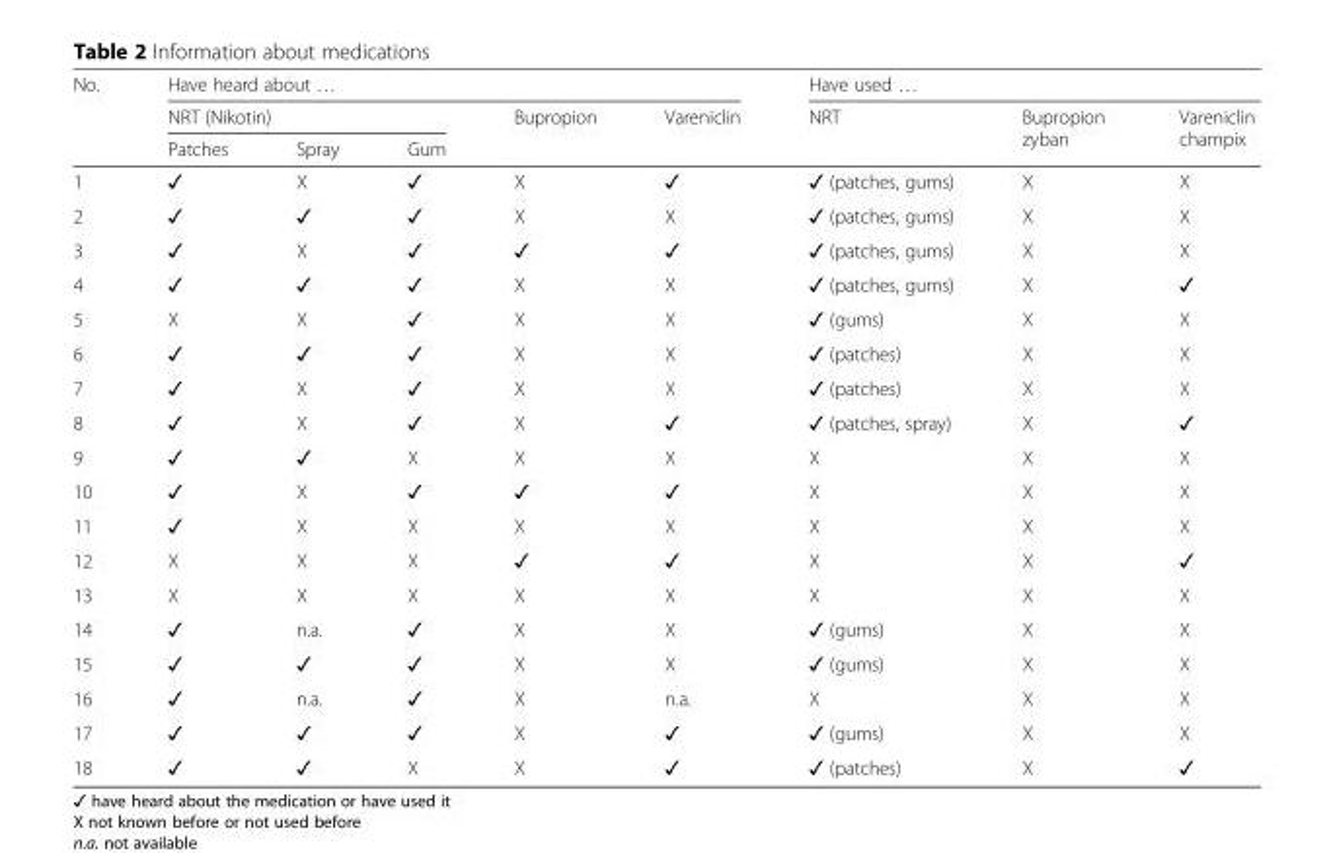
<table><thead><tr><td rowspan="3">No.</td><td colspan="5">Have heard about …</td><td colspan="3">Have used …</td></tr><tr><td colspan="3">NRT (Nikotin)</td><td rowspan="2">Bupropion</td><td rowspan="2">Vareniclin</td><td rowspan="2">NRT</td><td rowspan="2">Bupropion zyban</td><td rowspan="2">Vareniclin champix</td></tr><tr><td>Patches</td><td>Spray</td><td>Gum</td></tr></thead><tbody><tr><td>1</td><td>✓</td><td>X</td><td>✓</td><td>X</td><td>✓</td><td>✓ (patches, gums)</td><td>X</td><td>X</td></tr><tr><td>2</td><td>✓</td><td>✓</td><td>✓</td><td>X</td><td>X</td><td>✓ (patches, gums)</td><td>X</td><td>X</td></tr><tr><td>3</td><td>✓</td><td>X</td><td>✓</td><td>✓</td><td>✓</td><td>✓ (patches, gums)</td><td>X</td><td>X</td></tr><tr><td>4</td><td>✓</td><td>✓</td><td>✓</td><td>X</td><td>X</td><td>✓ (patches, gums)</td><td>X</td><td>✓</td></tr><tr><td>5</td><td>X</td><td>X</td><td>✓</td><td>X</td><td>X</td><td>✓ (gums)</td><td>X</td><td>X</td></tr><tr><td>6</td><td>✓</td><td>✓</td><td>✓</td><td>X</td><td>X</td><td>✓ (patches)</td><td>X</td><td>X</td></tr><tr><td>7</td><td>✓</td><td>X</td><td>✓</td><td>X</td><td>X</td><td>✓ (patches)</td><td>X</td><td>X</td></tr><tr><td>8</td><td>✓</td><td>X</td><td>✓</td><td>X</td><td>✓</td><td>✓ (patches, spray)</td><td>X</td><td>✓</td></tr><tr><td>9</td><td>✓</td><td>✓</td><td>X</td><td>X</td><td>X</td><td>X</td><td>X</td><td>X</td></tr><tr><td>10</td><td>✓</td><td>X</td><td>✓</td><td>✓</td><td>✓</td><td>X</td><td>X</td><td>X</td></tr><tr><td>11</td><td>✓</td><td>X</td><td>X</td><td>X</td><td>X</td><td>X</td><td>X</td><td>X</td></tr><tr><td>12</td><td>X</td><td>X</td><td>X</td><td>✓</td><td>✓</td><td>X</td><td>X</td><td>✓</td></tr><tr><td>13</td><td>X</td><td>X</td><td>X</td><td>X</td><td>X</td><td>X</td><td>X</td><td>X</td></tr><tr><td>14</td><td>✓</td><td>n.a.</td><td>✓</td><td>X</td><td>X</td><td>✓ (gums)</td><td>X</td><td>X</td></tr><tr><td>15</td><td>✓</td><td>✓</td><td>✓</td><td>X</td><td>X</td><td>✓ (gums)</td><td>X</td><td>X</td></tr><tr><td>16</td><td>✓</td><td>n.a.</td><td>✓</td><td>X</td><td>n.a.</td><td>X</td><td>X</td><td>X</td></tr><tr><td>17</td><td>✓</td><td>✓</td><td>✓</td><td>X</td><td>✓</td><td>✓ (gums)</td><td>X</td><td>X</td></tr><tr><td>18</td><td>✓</td><td>✓</td><td>X</td><td>X</td><td>✓</td><td>✓ (patches)</td><td>X</td><td>✓</td></tr></tbody></table>